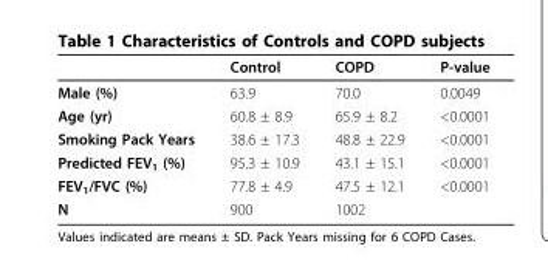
<table><thead><tr><td></td><td>Control</td><td>COPD</td><td>P-value</td></tr></thead><tbody><tr><td>Male (%)</td><td>63.9</td><td>70.0</td><td>0.0049</td></tr><tr><td>Age (yr)</td><td>60.8 ± 8.9</td><td>65.9 ± 8.2</td><td>&lt;0.0001</td></tr><tr><td>Smoking Pack Years</td><td>38.6 ± 17.3</td><td>48.8 ± 22.9</td><td>&lt;0.0001</td></tr><tr><td>Predicted FEV<sub>1</sub> (%)</td><td>95.3 ± 10.9</td><td>43.1 ± 15.1</td><td>&lt;0.0001</td></tr><tr><td>FEV<sub>1</sub>/FVC (%)</td><td>77.8 ± 4.9</td><td>47.5 ± 12.1</td><td>&lt;0.0001</td></tr><tr><td>N</td><td>900</td><td>1002</td><td></td></tr></tbody></table>